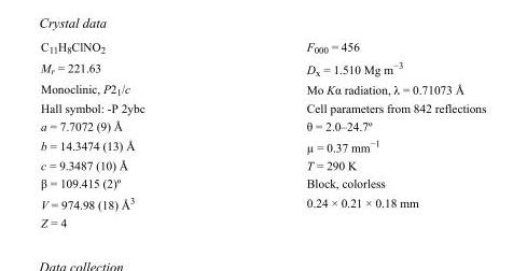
<table><tbody><tr><td>C<sub>11</sub>H<sub>8</sub>ClNO<sub>2</sub></td><td>F000 = 456</td></tr><tr><td>M<sub>r</sub> = 221.63</td><td>D<sub>x</sub> = 1.510 Mg m<sup>−3</sup></td></tr><tr><td>Monoclinic, P2<sub>1</sub>/c</td><td>Mo Kα radiation, λ = 0.71073 Å</td></tr><tr><td>Hall symbol: -P 2ybc</td><td>Cell parameters from 842 reflections</td></tr><tr><td>a = 7.7072 (9) Å</td><td>θ = 2.0–24.7º</td></tr><tr><td>b = 14.3474 (13) Å</td><td>µ = 0.37 mm<sup>−1</sup></td></tr><tr><td>c = 9.3487 (10) Å</td><td>T = 290 K</td></tr><tr><td>β = 109.415 (2)º</td><td>Block, colorless</td></tr><tr><td>V = 974.98 (18) Å<sup>3</sup></td><td>0.24 × 0.21 × 0.18 mm</td></tr><tr><td>Z = 4</td><td></td></tr></tbody></table>